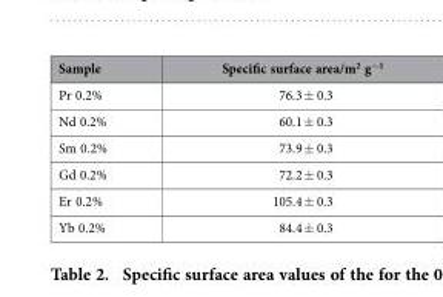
<table><thead><tr><td>Sample</td><td>Specific surface area/m<sup>2</sup> g<sup>−1</sup></td></tr></thead><tbody><tr><td>Pr 0.2%</td><td>76.3 ± 0.3</td></tr><tr><td>Nd 0.2%</td><td>60.1 ± 0.3</td></tr><tr><td>Sm 0.2%</td><td>73.9 ± 0.3</td></tr><tr><td>Gd 0.2%</td><td>72.2 ± 0.3</td></tr><tr><td>Er 0.2%</td><td>105.4 ± 0.3</td></tr><tr><td>Yb 0.2%</td><td>84.4 ± 0.3</td></tr></tbody></table>